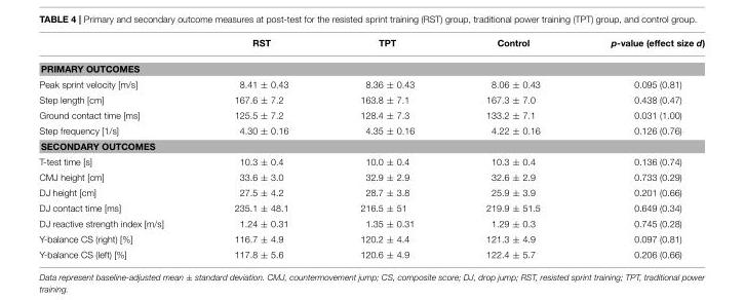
<table><thead><tr><td></td><td>RST</td><td>TPT</td><td>Control</td><td>p-value (effect size d)</td></tr></thead><tbody><tr><td colspan="5">PRIMARY OUTCOMES</td></tr><tr><td>Peak sprint velocity [m/s]</td><td>8.41 ± 0.43</td><td>8.36 ± 0.43</td><td>8.06 ± 0.43</td><td>0.095 (0.81)</td></tr><tr><td>Step length [cm]</td><td>167.6 ± 7.2</td><td>163.8 ± 7.1</td><td>167.3 ± 7.0</td><td>0.438 (0.47)</td></tr><tr><td>Ground contact time [ms]</td><td>125.5 ± 7.2</td><td>128.4 ± 7.3</td><td>133.2 ± 7.1</td><td>0.031 (1.00)</td></tr><tr><td>Step frequency [1/s]</td><td>4.30 ± 0.16</td><td>4.35 ± 0.16</td><td>4.22 ± 0.16</td><td>0.126 (0.76)</td></tr><tr><td colspan="5">SECONDARY OUTCOMES</td></tr><tr><td>T-test time [s]</td><td>10.3 ± 0.4</td><td>10.0 ± 0.4</td><td>10.3 ± 0.4</td><td>0.136 (0.74)</td></tr><tr><td>CMJ height [cm]</td><td>33.6 ± 3.0</td><td>32.9 ± 2.9</td><td>32.6 ± 2.9</td><td>0.733 (0.29)</td></tr><tr><td>DJ height [cm]</td><td>27.5 ± 4.2</td><td>28.7 ± 3.8</td><td>25.9 ± 3.9</td><td>0.201 (0.66)</td></tr><tr><td>DJ contact time [ms]</td><td>235.1 ± 48.1</td><td>216.5 ± 51</td><td>219.9 ± 51.5</td><td>0.649 (0.34)</td></tr><tr><td>DJ reactive strength index [m/s]</td><td>1.24 ± 0.31</td><td>1.35 ± 0.31</td><td>1.29 ± 0.3</td><td>0.745 (0.28)</td></tr><tr><td>Y-balance CS (right) [%]</td><td>116.7 ± 4.9</td><td>120.2 ± 4.4</td><td>121.3 ± 4.9</td><td>0.097 (0.81)</td></tr><tr><td>Y-balance CS (left) [%]</td><td>117.8 ± 5.6</td><td>120.6 ± 4.9</td><td>122.4 ± 5.7</td><td>0.206 (0.66)</td></tr></tbody></table>